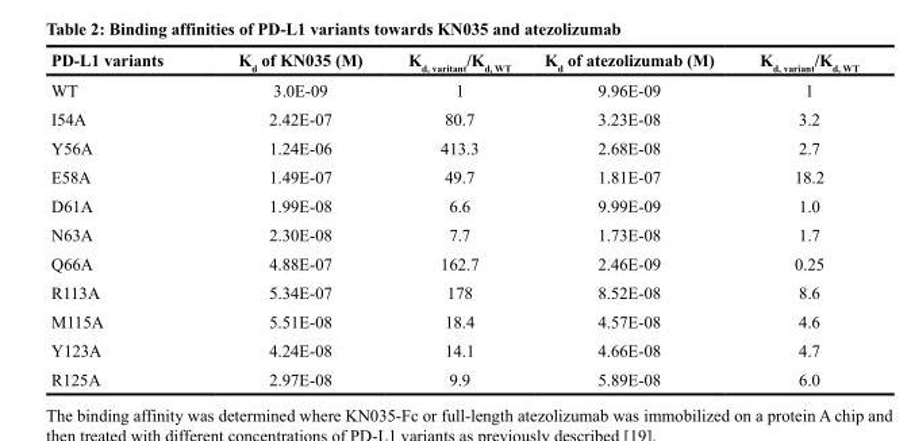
<table><thead><tr><td>PD-L1 variants</td><td>K<sub>d</sub> of KN035 (M)</td><td>K<sub>d, varitant</sub>/K<sub>d, WT</sub></td><td>K<sub>d</sub> of atezolizumab (M)</td><td>K<sub>d, variant</sub>/K<sub>d, WT</sub></td></tr></thead><tbody><tr><td>WT</td><td>3.0E-09</td><td>1</td><td>9.96E-09</td><td>1</td></tr><tr><td>I54A</td><td>2.42E-07</td><td>80.7</td><td>3.23E-08</td><td>3.2</td></tr><tr><td>Y56A</td><td>1.24E-06</td><td>413.3</td><td>2.68E-08</td><td>2.7</td></tr><tr><td>E58A</td><td>1.49E-07</td><td>49.7</td><td>1.81E-07</td><td>18.2</td></tr><tr><td>D61A</td><td>1.99E-08</td><td>6.6</td><td>9.99E-09</td><td>1.0</td></tr><tr><td>N63A</td><td>2.30E-08</td><td>7.7</td><td>1.73E-08</td><td>1.7</td></tr><tr><td>Q66A</td><td>4.88E-07</td><td>162.7</td><td>2.46E-09</td><td>0.25</td></tr><tr><td>R113A</td><td>5.34E-07</td><td>178</td><td>8.52E-08</td><td>8.6</td></tr><tr><td>M115A</td><td>5.51E-08</td><td>18.4</td><td>4.57E-08</td><td>4.6</td></tr><tr><td>Y123A</td><td>4.24E-08</td><td>14.1</td><td>4.66E-08</td><td>4.7</td></tr><tr><td>R125A</td><td>2.97E-08</td><td>9.9</td><td>5.89E-08</td><td>6.0</td></tr></tbody></table>